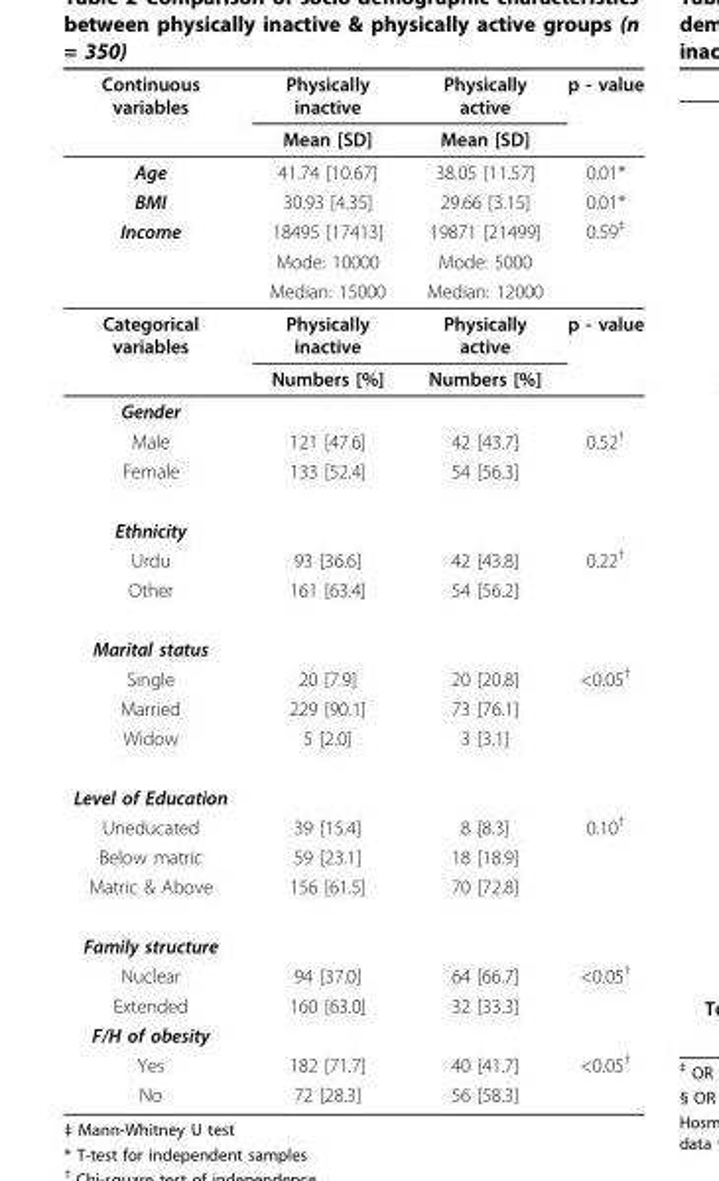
<table><thead><tr><td rowspan="2">Continuous variables</td><td rowspan="2">Physically inactive Mean [SD]</td><td rowspan="2">Physically active Mean [SD]</td><td rowspan="2">p - value</td></tr><tr></tr></thead><tbody><tr><td>Age</td><td>41.74 [10.67]</td><td>38.05 [11.57]</td><td>0.01*</td></tr><tr><td>BMI</td><td>30.93 [4.35]</td><td>29.66 [3.15]</td><td>0.01*</td></tr><tr><td rowspan="3">Income</td><td>18495 [17413]</td><td>19871 [21499]</td><td>0.59<sup>‡</sup></td></tr><tr><td>Mode: 10000</td><td>Mode: 5000</td><td></td></tr><tr><td>Median: 15000</td><td>Median: 12000</td><td></td></tr><tr><td rowspan="2">Categorical variables</td><td>Physically inactive</td><td>Physically active</td><td>p - value</td></tr><tr><td>Numbers [%]</td><td>Numbers [%]</td><td></td></tr><tr><td colspan="4">Gender</td></tr><tr><td>Male</td><td>121 [47.6]</td><td>42 [43.7]</td><td>0.52<sup>†</sup></td></tr><tr><td>Female</td><td>133 [52.4]</td><td>54 [56.3]</td><td></td></tr><tr><td colspan="4">Ethnicity</td></tr><tr><td>Urdu</td><td>93 [36.6]</td><td>42 [43.8]</td><td>0.22<sup>†</sup></td></tr><tr><td>Other</td><td>161 [63.4]</td><td>54 [56.2]</td><td></td></tr><tr><td colspan="4">Marital status</td></tr><tr><td>Single</td><td>20 [7.9]</td><td>20 [20.8]</td><td>&lt;0.05<sup>†</sup></td></tr><tr><td>Married</td><td>229 [90.1]</td><td>73 [76.1]</td><td></td></tr><tr><td>Widow</td><td>5 [2.0]</td><td>3 [3.1]</td><td></td></tr><tr><td colspan="4">Level of Education</td></tr><tr><td>Uneducated</td><td>39 [15.4]</td><td>8 [8.3]</td><td>0.10<sup>†</sup></td></tr><tr><td>Below matric</td><td>59 [23.1]</td><td>18 [18.9]</td><td></td></tr><tr><td>Matric &amp; Above</td><td>156 [61.5]</td><td>70 [72.8]</td><td></td></tr><tr><td colspan="4">Family structure</td></tr><tr><td>Nuclear</td><td>94 [37.0]</td><td>64 [66.7]</td><td>&lt;0.05<sup>†</sup></td></tr><tr><td>Extended</td><td>160 [63.0]</td><td>32 [33.3]</td><td></td></tr><tr><td colspan="4">F/H of obesity</td></tr><tr><td>Yes</td><td>182 [71.7]</td><td>40 [41.7]</td><td>&lt;0.05<sup>†</sup></td></tr><tr><td>No</td><td>72 [28.3]</td><td>56 [58.3]</td><td></td></tr></tbody></table>